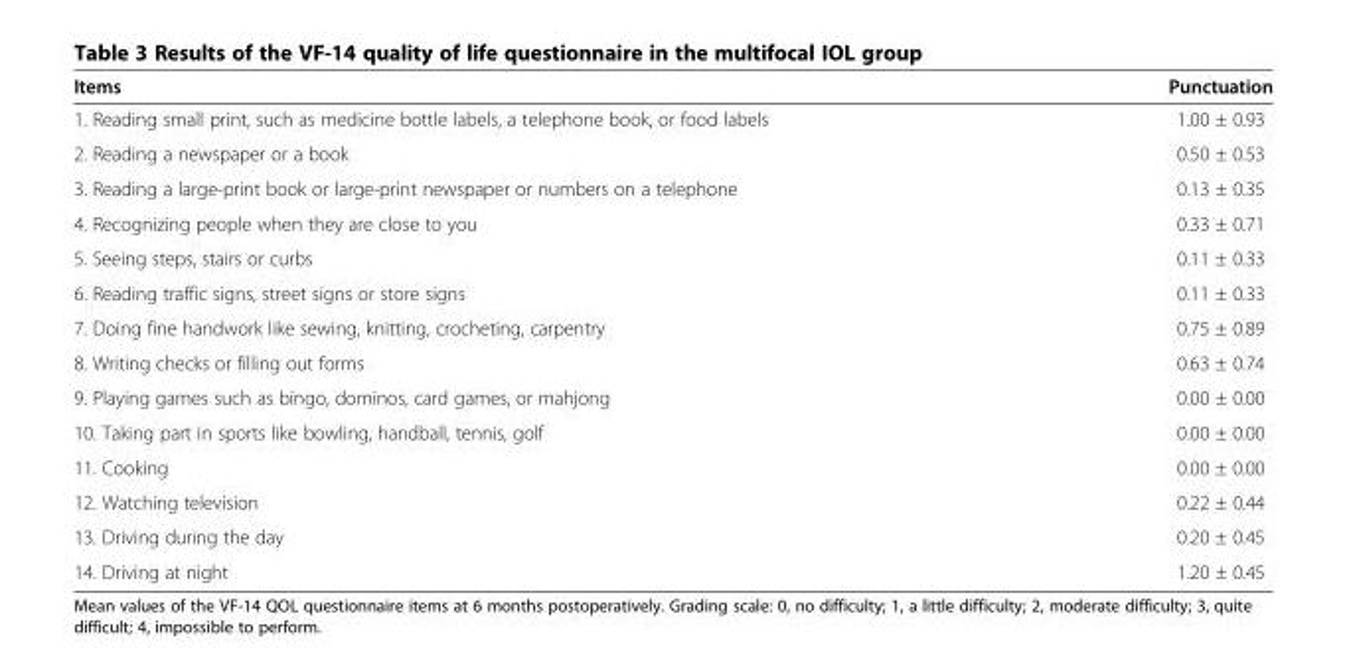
<table><thead><tr><td>Items</td><td>Punctuation</td></tr></thead><tbody><tr><td>1. Reading small print, such as medicine bottle labels, a telephone book, or food labels</td><td>1.00 ± 0.93</td></tr><tr><td>2. Reading a newspaper or a book</td><td>0.50 ± 0.53</td></tr><tr><td>3. Reading a large-print book or large-print newspaper or numbers on a telephone</td><td>0.13 ± 0.35</td></tr><tr><td>4. Recognizing people when they are close to you</td><td>0.33 ± 0.71</td></tr><tr><td>5. Seeing steps, stairs or curbs</td><td>0.11 ± 0.33</td></tr><tr><td>6. Reading traffic signs, street signs or store signs</td><td>0.11 ± 0.33</td></tr><tr><td>7. Doing fine handwork like sewing, knitting, crocheting, carpentry</td><td>0.75 ± 0.89</td></tr><tr><td>8. Writing checks or filling out forms</td><td>0.63 ± 0.74</td></tr><tr><td>9. Playing games such as bingo, dominos, card games, or mahjong</td><td>0.00 ± 0.00</td></tr><tr><td>10. Taking part in sports like bowling, handball, tennis, golf</td><td>0.00 ± 0.00</td></tr><tr><td>11. Cooking</td><td>0.00 ± 0.00</td></tr><tr><td>12. Watching television</td><td>0.22 ± 0.44</td></tr><tr><td>13. Driving during the day</td><td>0.20 ± 0.45</td></tr><tr><td>14. Driving at night</td><td>1.20 ± 0.45</td></tr></tbody></table>